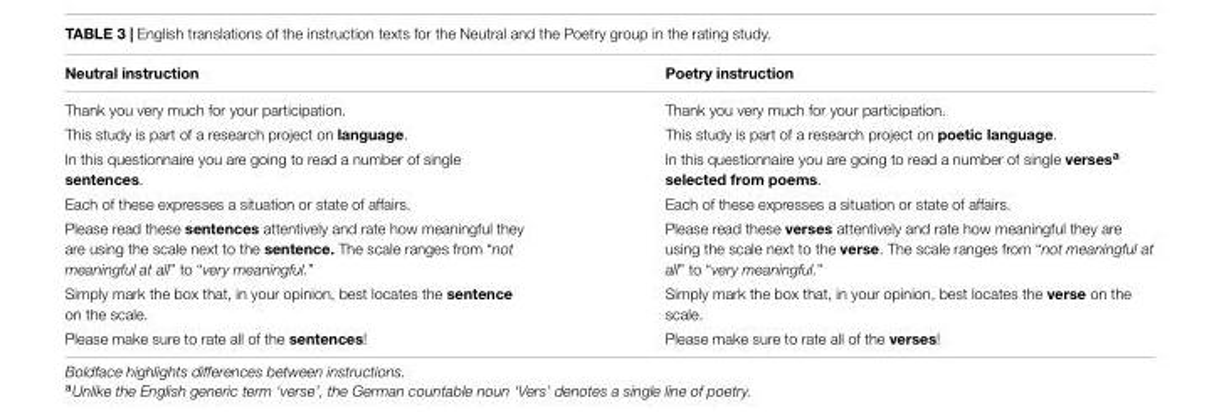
<table><thead><tr><td>Neutral instruction</td><td>Poetry instruction</td></tr></thead><tbody><tr><td>Thank you very much for your participation.</td><td>Thank you very much for your participation.</td></tr><tr><td>This study is part of a research project on language.</td><td>This study is part of a research project on poetic language.</td></tr><tr><td>In this questionnaire you are going to read a number of single sentences.</td><td>In this questionnaire you are going to read a number of single verses<sup>a</sup> selected from poems.</td></tr><tr><td>Each of these expresses a situation or state of affairs.</td><td>Each of these expresses a situation or state of affairs.</td></tr><tr><td>Please read these sentences attentively and rate how meaningful they are using the scale next to the sentence. The scale ranges from “not meaningful at all” to “very meaningful.”</td><td>Please read these verses attentively and rate how meaningful they are using the scale next to the verse. The scale ranges from “not meaningful at all” to “very meaningful.”</td></tr><tr><td>Simply mark the box that, in your opinion, best locates the sentence on the scale.</td><td>Simply mark the box that, in your opinion, best locates the verse on the scale.</td></tr><tr><td>Please make sure to rate all of the sentences!</td><td>Please make sure to rate all of the verses!</td></tr></tbody></table>